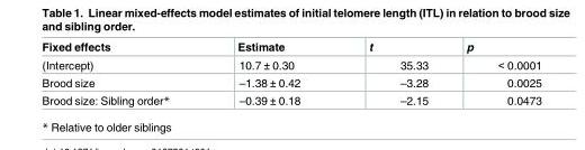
<table><thead><tr><td>Fixed effects</td><td>Estimate</td><td>t</td><td>p</td></tr></thead><tbody><tr><td>(Intercept)</td><td>10.7 ± 0.30</td><td>35.33</td><td>&lt; 0.0001</td></tr><tr><td>Brood size</td><td>–1.38 ± 0.42</td><td>–3.28</td><td>0.0025</td></tr><tr><td>Brood size: Sibling order*</td><td>–0.39 ± 0.18</td><td>–2.15</td><td>0.0473</td></tr></tbody></table>